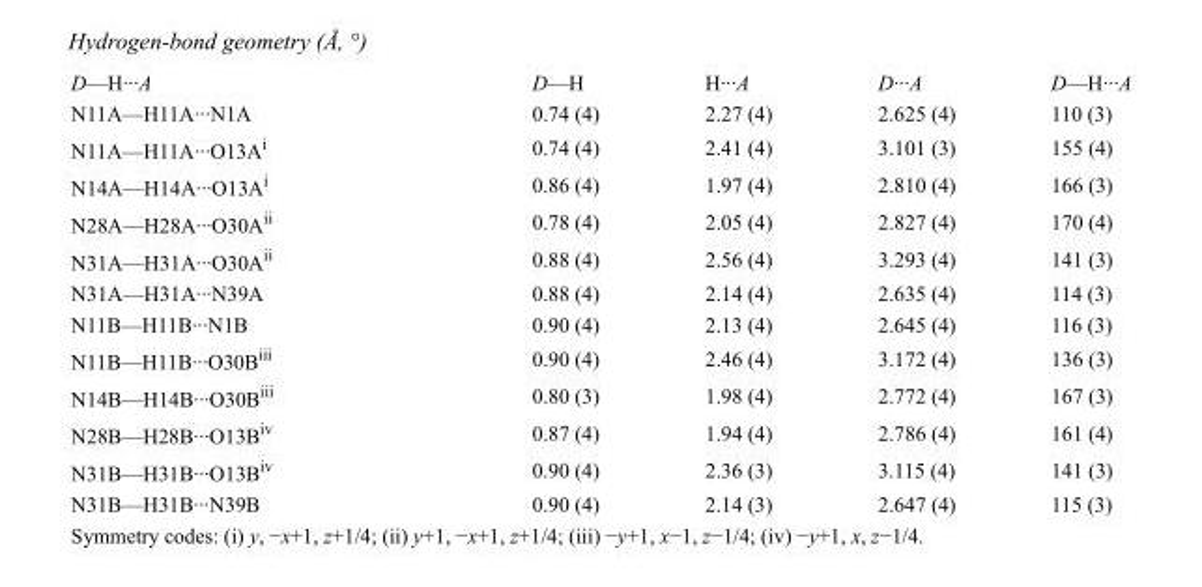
<table><tbody><tr><td>D—H···A</td><td>D—H</td><td>H···A</td><td>D···A</td><td>D—H···A</td></tr><tr><td>N11A—H11A···N1A</td><td>0.74 (4)</td><td>2.27 (4)</td><td>2.625 (4)</td><td>110 (3)</td></tr><tr><td>N11A—H11A···O13A<sup>i</sup></td><td>0.74 (4)</td><td>2.41 (4)</td><td>3.101 (3)</td><td>155 (4)</td></tr><tr><td>N14A—H14A···O13A<sup>i</sup></td><td>0.86 (4)</td><td>1.97 (4)</td><td>2.810 (4)</td><td>166 (3)</td></tr><tr><td>N28A—H28A···O30A<sup>ii</sup></td><td>0.78 (4)</td><td>2.05 (4)</td><td>2.827 (4)</td><td>170 (4)</td></tr><tr><td>N31A—H31A···O30A<sup>ii</sup></td><td>0.88 (4)</td><td>2.56 (4)</td><td>3.293 (4)</td><td>141 (3)</td></tr><tr><td>N31A—H31A···N39A</td><td>0.88 (4)</td><td>2.14 (4)</td><td>2.635 (4)</td><td>114 (3)</td></tr><tr><td>N11B—H11B···N1B</td><td>0.90 (4)</td><td>2.13 (4)</td><td>2.645 (4)</td><td>116 (3)</td></tr><tr><td>N11B—H11B···O30B<sup>iii</sup></td><td>0.90 (4)</td><td>2.46 (4)</td><td>3.172 (4)</td><td>136 (3)</td></tr><tr><td>N14B—H14B···O30B<sup>iii</sup></td><td>0.80 (3)</td><td>1.98 (4)</td><td>2.772 (4)</td><td>167 (3)</td></tr><tr><td>N28B—H28B···O13B<sup>iv</sup></td><td>0.87 (4)</td><td>1.94 (4)</td><td>2.786 (4)</td><td>161 (4)</td></tr><tr><td>N31B—H31B···O13B<sup>iv</sup></td><td>0.90 (4)</td><td>2.36 (3)</td><td>3.115 (4)</td><td>141 (3)</td></tr><tr><td>N31B—H31B···N39B</td><td>0.90 (4)</td><td>2.14 (3)</td><td>2.647 (4)</td><td>115 (3)</td></tr></tbody></table>